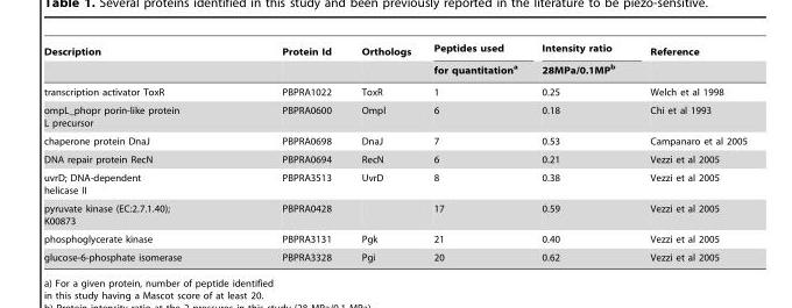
<table><thead><tr><td rowspan="2">Description</td><td rowspan="2">Protein Id</td><td rowspan="2">Orthologs</td><td rowspan="2">Peptides used for quantitation<sup>a</sup></td><td rowspan="2">Intensity ratio 28MPa/0.1MP<sup>b</sup></td><td rowspan="2">Reference</td></tr><tr></tr></thead><tbody><tr><td>transcription activator ToxR</td><td>PBPRA1022</td><td>ToxR</td><td>1</td><td>0.25</td><td>Welch et al 1998</td></tr><tr><td>ompL_phopr porin-like protein L precursor</td><td>PBPRA0600</td><td>Ompl</td><td>6</td><td>0.18</td><td>Chi et al 1993</td></tr><tr><td>chaperone protein DnaJ</td><td>PBPRA0698</td><td>DnaJ</td><td>7</td><td>0.53</td><td>Campanaro et al 2005</td></tr><tr><td>DNA repair protein RecN</td><td>PBPRA0694</td><td>RecN</td><td>6</td><td>0.21</td><td>Vezzi et al 2005</td></tr><tr><td>uvrD; DNA-dependent helicase II</td><td>PBPRA3513</td><td>UvrD</td><td>8</td><td>0.38</td><td>Vezzi et al 2005</td></tr><tr><td>pyruvate kinase (EC:2.7.1.40); K00873</td><td>PBPRA0428</td><td></td><td>17</td><td>0.59</td><td>Vezzi et al 2005</td></tr><tr><td>phosphoglycerate kinase</td><td>PBPRA3131</td><td>Pgk</td><td>21</td><td>0.40</td><td>Vezzi et al 2005</td></tr><tr><td>glucose-6-phosphate isomerase</td><td>PBPRA3328</td><td>Pgi</td><td>20</td><td>0.62</td><td>Vezzi et al 2005</td></tr></tbody></table>